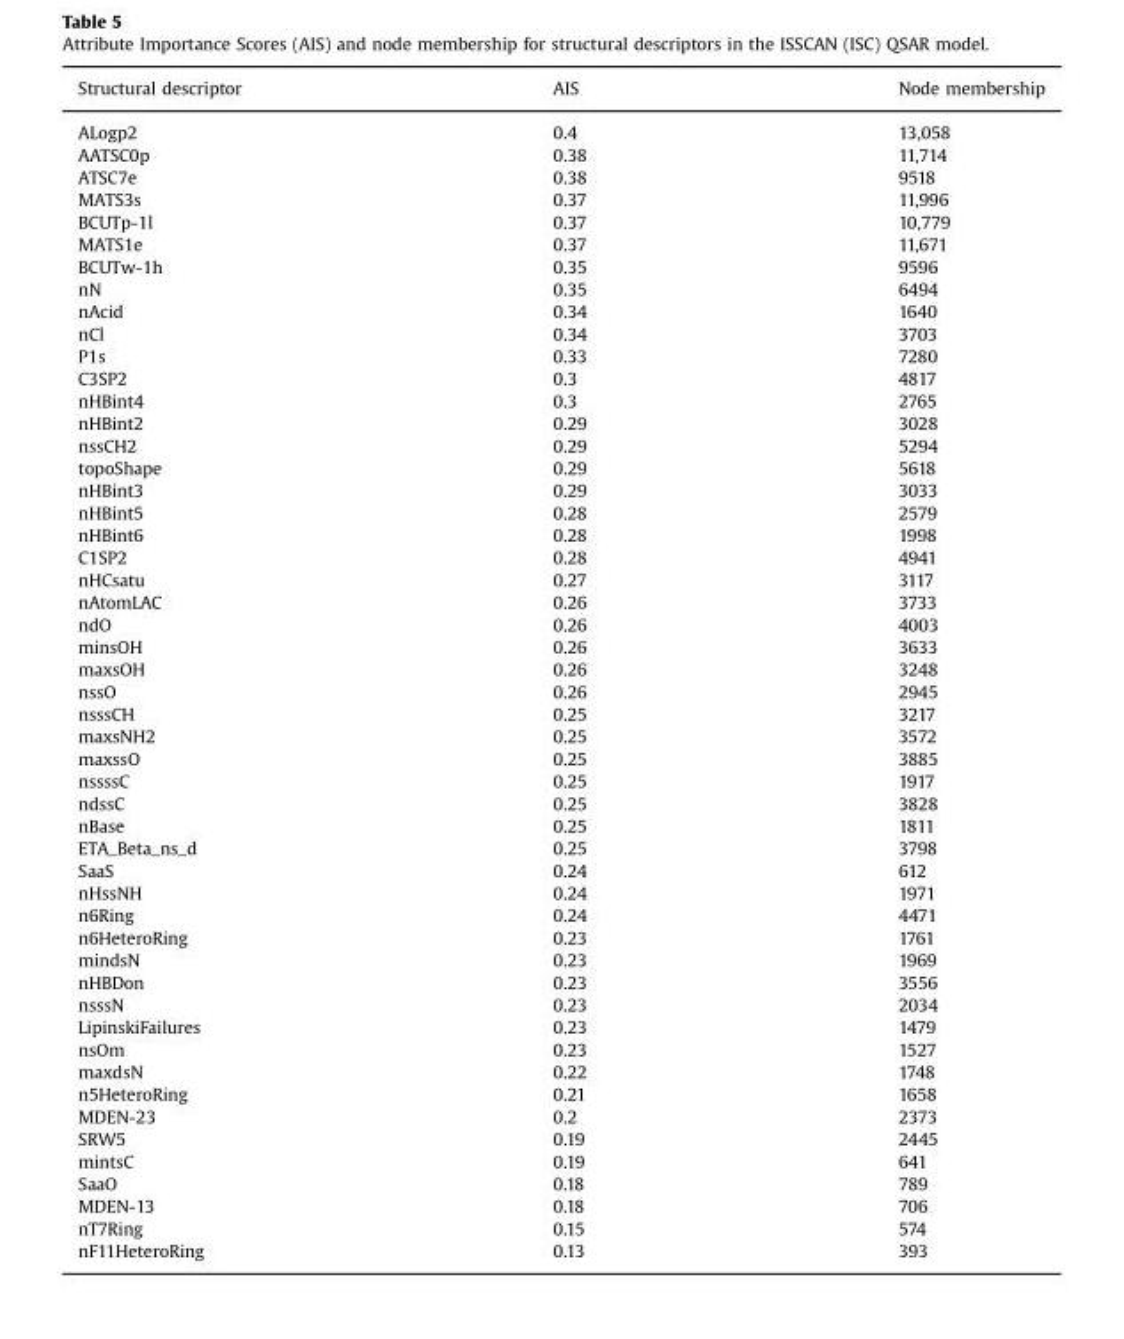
<table><thead><tr><td>Structural descriptor</td><td>AIS</td><td>Node membership</td></tr></thead><tbody><tr><td>ALogp2</td><td>0.4</td><td>13,058</td></tr><tr><td>AATSC0p</td><td>0.38</td><td>11,714</td></tr><tr><td>ATSC7e</td><td>0.38</td><td>9518</td></tr><tr><td>MATS3s</td><td>0.37</td><td>11,996</td></tr><tr><td>BCUTp-1l</td><td>0.37</td><td>10,779</td></tr><tr><td>MATS1e</td><td>0.37</td><td>11,671</td></tr><tr><td>BCUTw-1h</td><td>0.35</td><td>9596</td></tr><tr><td>nN</td><td>0.35</td><td>6494</td></tr><tr><td>nAcid</td><td>0.34</td><td>1640</td></tr><tr><td>nCl</td><td>0.34</td><td>3703</td></tr><tr><td>P1s</td><td>0.33</td><td>7280</td></tr><tr><td>C3SP2</td><td>0.3</td><td>4817</td></tr><tr><td>nHBint4</td><td>0.3</td><td>2765</td></tr><tr><td>nHBint2</td><td>0.29</td><td>3028</td></tr><tr><td>nssCH2</td><td>0.29</td><td>5294</td></tr><tr><td>topoShape</td><td>0.29</td><td>5618</td></tr><tr><td>nHBint3</td><td>0.29</td><td>3033</td></tr><tr><td>nHBint5</td><td>0.28</td><td>2579</td></tr><tr><td>nHBint6</td><td>0.28</td><td>1998</td></tr><tr><td>C1SP2</td><td>0.28</td><td>4941</td></tr><tr><td>nHCsatu</td><td>0.27</td><td>3117</td></tr><tr><td>nAtomLAC</td><td>0.26</td><td>3733</td></tr><tr><td>ndO</td><td>0.26</td><td>4003</td></tr><tr><td>minsOH</td><td>0.26</td><td>3633</td></tr><tr><td>maxsOH</td><td>0.26</td><td>3248</td></tr><tr><td>nssO</td><td>0.26</td><td>2945</td></tr><tr><td>nsssCH</td><td>0.25</td><td>3217</td></tr><tr><td>maxsNH2</td><td>0.25</td><td>3572</td></tr><tr><td>maxssO</td><td>0.25</td><td>3885</td></tr><tr><td>nssssC</td><td>0.25</td><td>1917</td></tr><tr><td>ndssC</td><td>0.25</td><td>3828</td></tr><tr><td>nBase</td><td>0.25</td><td>1811</td></tr><tr><td>ETA_Beta_ns_d</td><td>0.25</td><td>3798</td></tr><tr><td>SaaS</td><td>0.24</td><td>612</td></tr><tr><td>nHssNH</td><td>0.24</td><td>1971</td></tr><tr><td>n6Ring</td><td>0.24</td><td>4471</td></tr><tr><td>n6HeteroRing</td><td>0.23</td><td>1761</td></tr><tr><td>mindsN</td><td>0.23</td><td>1969</td></tr><tr><td>nHBDon</td><td>0.23</td><td>3556</td></tr><tr><td>nsssN</td><td>0.23</td><td>2034</td></tr><tr><td>LipinskiFailures</td><td>0.23</td><td>1479</td></tr><tr><td>nsOm</td><td>0.23</td><td>1527</td></tr><tr><td>maxdsN</td><td>0.22</td><td>1748</td></tr><tr><td>n5HeteroRing</td><td>0.21</td><td>1658</td></tr><tr><td>MDEN-23</td><td>0.2</td><td>2373</td></tr><tr><td>SRW5</td><td>0.19</td><td>2445</td></tr><tr><td>mintsC</td><td>0.19</td><td>641</td></tr><tr><td>SaaO</td><td>0.18</td><td>789</td></tr><tr><td>MDEN-13</td><td>0.18</td><td>706</td></tr><tr><td>nT7Ring</td><td>0.15</td><td>574</td></tr><tr><td>nF11HeteroRing</td><td>0.13</td><td>393</td></tr></tbody></table>